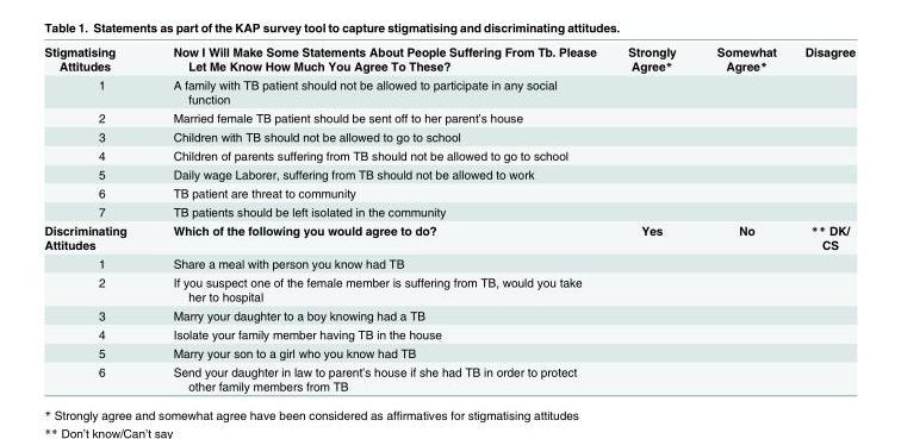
<table><tbody><tr><td>Stigmatising Attitudes</td><td>Now I Will Make Some Statements About People Suffering From Tb. Please Let Me Know How Much You Agree To These?</td><td>Strongly Agree*</td><td>Somewhat Agree*</td><td>Disagree</td></tr><tr><td>1</td><td>A family with TB patient should not be allowed to participate in any social function</td><td></td><td></td><td></td></tr><tr><td>2</td><td>Married female TB patient should be sent off to her parent’s house</td><td></td><td></td><td></td></tr><tr><td>3</td><td>Children with TB should not be allowed to go to school</td><td></td><td></td><td></td></tr><tr><td>4</td><td>Children of parents suffering from TB should not be allowed to go to school</td><td></td><td></td><td></td></tr><tr><td>5</td><td>Daily wage Laborer, suffering from TB should not be allowed to work</td><td></td><td></td><td></td></tr><tr><td>6</td><td>TB patient are threat to community</td><td></td><td></td><td></td></tr><tr><td>7</td><td>TB patients should be left isolated in the community</td><td></td><td></td><td></td></tr><tr><td>Discriminating Attitudes</td><td>Which of the following you would agree to do?</td><td>Yes</td><td>No</td><td>** DK/ CS</td></tr><tr><td>1</td><td>Share a meal with person you know had TB</td><td></td><td></td><td></td></tr><tr><td>2</td><td>If you suspect one of the female member is suffering from TB, would you take her to hospital</td><td></td><td></td><td></td></tr><tr><td>3</td><td>Marry your daughter to a boy knowing had a TB</td><td></td><td></td><td></td></tr><tr><td>4</td><td>Isolate your family member having TB in the house</td><td></td><td></td><td></td></tr><tr><td>5</td><td>Marry your son to a girl who you know had TB</td><td></td><td></td><td></td></tr><tr><td>6</td><td>Send your daughter in law to parent’s house if she had TB in order to protect other family members from TB</td><td></td><td></td><td></td></tr></tbody></table>